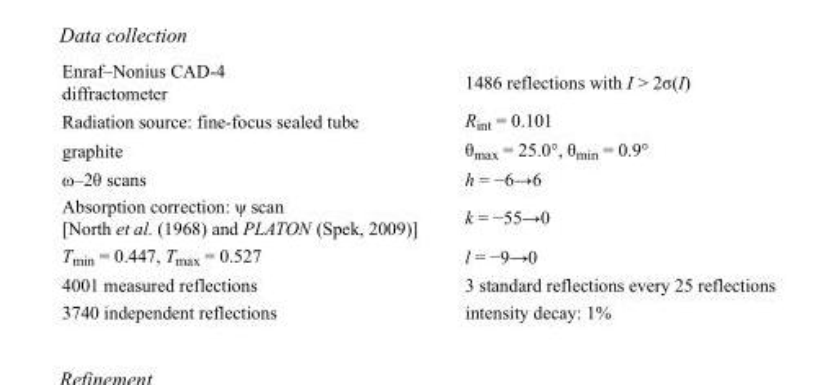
<table><tbody><tr><td>Enraf–Nonius CAD-4 diffractometer</td><td>1486 reflections with I &gt; 2σ(I)</td></tr><tr><td>Radiation source: fine-focus sealed tube</td><td>R<sub>int</sub> = 0.101</td></tr><tr><td>graphite</td><td>θ<sub>max</sub> = 25.0°, θ<sub>min</sub> = 0.9°</td></tr><tr><td>ω–2θ scans</td><td>h = −6→6</td></tr><tr><td>Absorption correction: ψ scan [North et al. (1968) and PLATON (Spek, 2009)]</td><td>k = −55→0</td></tr><tr><td>T<sub>min</sub> = 0.447, T<sub>max</sub> = 0.527</td><td>l = −9→0</td></tr><tr><td>4001 measured reflections</td><td>3 standard reflections every 25 reflections</td></tr><tr><td>3740 independent reflections</td><td>intensity decay: 1%</td></tr></tbody></table>